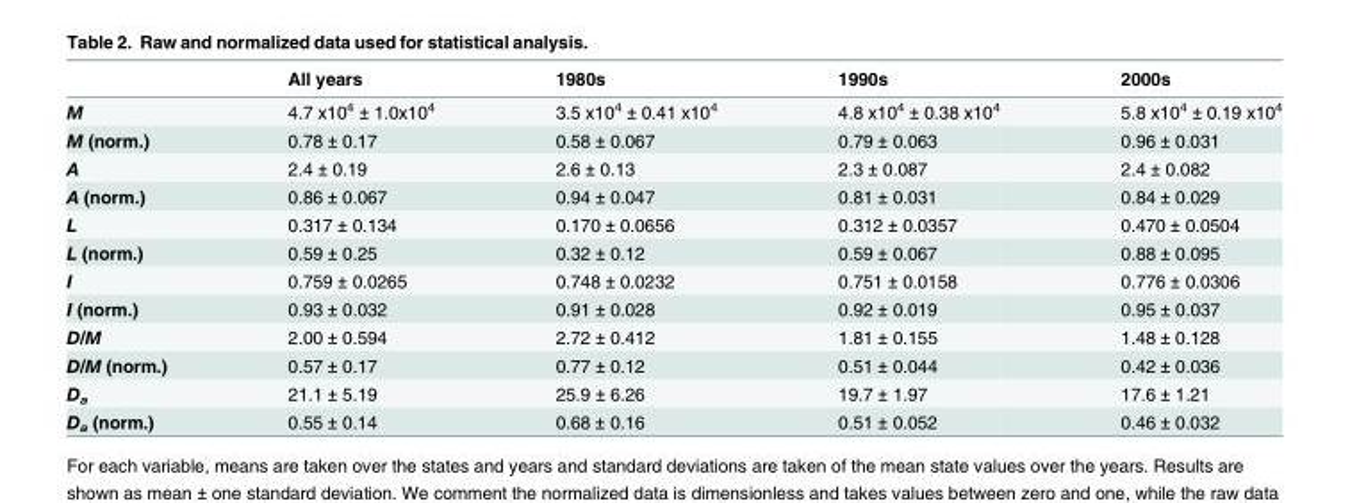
<table><thead><tr><td></td><td>All years</td><td>1980s</td><td>1990s</td><td>2000s</td></tr></thead><tbody><tr><td>M</td><td>4.7 x10<sup>4</sup> ± 1.0x10<sup>4</sup></td><td>3.5 x10<sup>4</sup> ± 0.41 x10<sup>4</sup></td><td>4.8 x10<sup>4</sup> ± 0.38 x10<sup>4</sup></td><td>5.8 x10<sup>4</sup> ± 0.19 x10<sup>4</sup></td></tr><tr><td>M (norm.)</td><td>0.78 ± 0.17</td><td>0.58 ± 0.067</td><td>0.79 ± 0.063</td><td>0.96 ± 0.031</td></tr><tr><td>A</td><td>2.4 ± 0.19</td><td>2.6 ± 0.13</td><td>2.3 ± 0.087</td><td>2.4 ± 0.082</td></tr><tr><td>A (norm.)</td><td>0.86 ± 0.067</td><td>0.94 ± 0.047</td><td>0.81 ± 0.031</td><td>0.84 ± 0.029</td></tr><tr><td>L</td><td>0.317 ± 0.134</td><td>0.170 ± 0.0656</td><td>0.312 ± 0.0357</td><td>0.470 ± 0.0504</td></tr><tr><td>L (norm.)</td><td>0.59 ± 0.25</td><td>0.32 ± 0.12</td><td>0.59 ± 0.067</td><td>0.88 ± 0.095</td></tr><tr><td>I</td><td>0.759 ± 0.0265</td><td>0.748 ± 0.0232</td><td>0.751 ± 0.0158</td><td>0.776 ± 0.0306</td></tr><tr><td>I (norm.)</td><td>0.93 ± 0.032</td><td>0.91 ± 0.028</td><td>0.92 ± 0.019</td><td>0.95 ± 0.037</td></tr><tr><td>D/M</td><td>2.00 ± 0.594</td><td>2.72 ± 0.412</td><td>1.81 ± 0.155</td><td>1.48 ± 0.128</td></tr><tr><td>D/M (norm.)</td><td>0.57 ± 0.17</td><td>0.77 ± 0.12</td><td>0.51 ± 0.044</td><td>0.42 ± 0.036</td></tr><tr><td>D<sub>a</sub></td><td>21.1 ± 5.19</td><td>25.9 ± 6.26</td><td>19.7 ± 1.97</td><td>17.6 ± 1.21</td></tr><tr><td>D<sub>a</sub> (norm.)</td><td>0.55 ± 0.14</td><td>0.68 ± 0.16</td><td>0.51 ± 0.052</td><td>0.46 ± 0.032</td></tr></tbody></table>